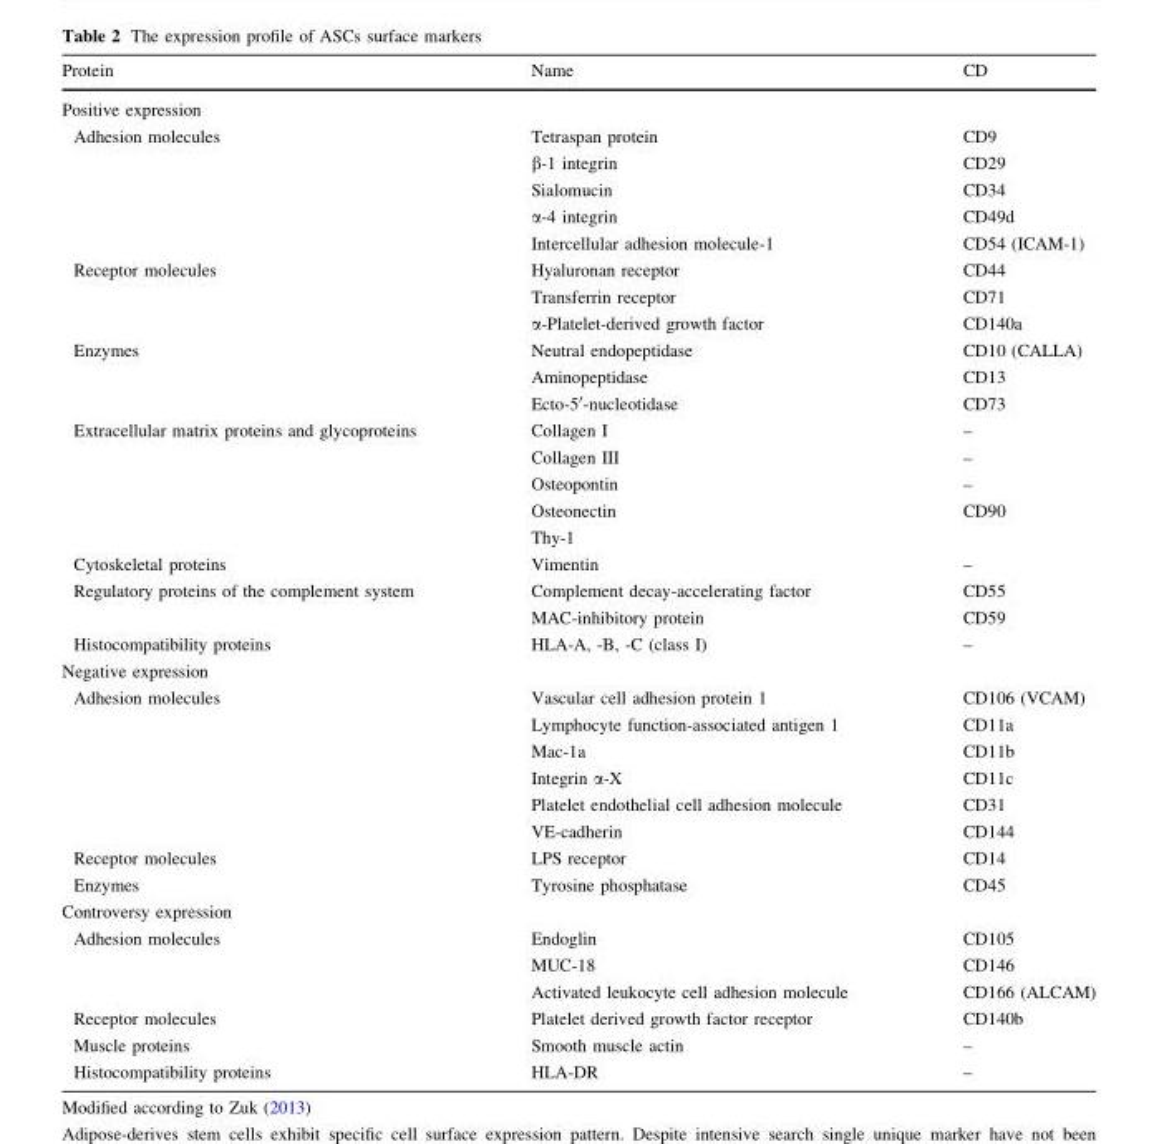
<table><thead><tr><td>Protein</td><td>Name</td><td>CD</td></tr></thead><tbody><tr><td colspan="3">Positive expression</td></tr><tr><td rowspan="5">Adhesion molecules</td><td>Tetraspan protein</td><td>CD9</td></tr><tr><td>β-1 integrin</td><td>CD29</td></tr><tr><td>Sialomucin</td><td>CD34</td></tr><tr><td>α-4 integrin</td><td>CD49d</td></tr><tr><td>Intercellular adhesion molecule-1</td><td>CD54 (ICAM-1)</td></tr><tr><td rowspan="3">Receptor molecules</td><td>Hyaluronan receptor</td><td>CD44</td></tr><tr><td>Transferrin receptor</td><td>CD71</td></tr><tr><td>α-Platelet-derived growth factor</td><td>CD140a</td></tr><tr><td rowspan="3">Enzymes</td><td>Neutral endopeptidase</td><td>CD10 (CALLA)</td></tr><tr><td>Aminopeptidase</td><td>CD13</td></tr><tr><td>Ecto-5′-nucleotidase</td><td>CD73</td></tr><tr><td rowspan="5">Extracellular matrix proteins and glycoproteins</td><td>Collagen I</td><td>–</td></tr><tr><td>Collagen III</td><td>–</td></tr><tr><td>Osteopontin</td><td>–</td></tr><tr><td>Osteonectin</td><td>CD90</td></tr><tr><td>Thy-1</td><td></td></tr><tr><td>Cytoskeletal proteins</td><td>Vimentin</td><td>–</td></tr><tr><td rowspan="2">Regulatory proteins of the complement system</td><td>Complement decay-accelerating factor</td><td>CD55</td></tr><tr><td>MAC-inhibitory protein</td><td>CD59</td></tr><tr><td>Histocompatibility proteins</td><td>HLA-A, -B, -C (class I)</td><td>–</td></tr><tr><td colspan="3">Negative expression</td></tr><tr><td rowspan="6">Adhesion molecules</td><td>Vascular cell adhesion protein 1</td><td>CD106 (VCAM)</td></tr><tr><td>Lymphocyte function-associated antigen 1</td><td>CD11a</td></tr><tr><td>Mac-1a</td><td>CD11b</td></tr><tr><td>Integrin α-X</td><td>CD11c</td></tr><tr><td>Platelet endothelial cell adhesion molecule</td><td>CD31</td></tr><tr><td>VE-cadherin</td><td>CD144</td></tr><tr><td>Receptor molecules</td><td>LPS receptor</td><td>CD14</td></tr><tr><td>Enzymes</td><td>Tyrosine phosphatase</td><td>CD45</td></tr><tr><td colspan="3">Controversy expression</td></tr><tr><td rowspan="3">Adhesion molecules</td><td>Endoglin</td><td>CD105</td></tr><tr><td>MUC-18</td><td>CD146</td></tr><tr><td>Activated leukocyte cell adhesion molecule</td><td>CD166 (ALCAM)</td></tr><tr><td>Receptor molecules</td><td>Platelet derived growth factor receptor</td><td>CD140b</td></tr><tr><td>Muscle proteins</td><td>Smooth muscle actin</td><td>–</td></tr><tr><td>Histocompatibility proteins</td><td>HLA-DR</td><td>–</td></tr></tbody></table>